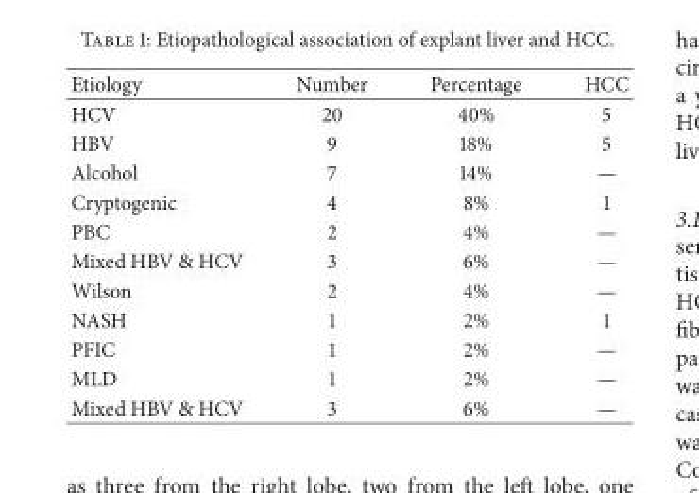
<table><thead><tr><td>Etiology</td><td>Number</td><td>Percentage</td><td>HCC</td></tr></thead><tbody><tr><td>HCV</td><td>20</td><td>40%</td><td>5</td></tr><tr><td>HBV</td><td>9</td><td>18%</td><td>5</td></tr><tr><td>Alcohol</td><td>7</td><td>14%</td><td>—</td></tr><tr><td>Cryptogenic</td><td>4</td><td>8%</td><td>1</td></tr><tr><td>PBC</td><td>2</td><td>4%</td><td>—</td></tr><tr><td>Mixed HBV &amp; HCV</td><td>3</td><td>6%</td><td>—</td></tr><tr><td>Wilson</td><td>2</td><td>4%</td><td>—</td></tr><tr><td>NASH</td><td>1</td><td>2%</td><td>1</td></tr><tr><td>PFIC</td><td>1</td><td>2%</td><td>—</td></tr><tr><td>MLD</td><td>1</td><td>2%</td><td>—</td></tr><tr><td>Mixed HBV &amp; HCV</td><td>3</td><td>6%</td><td>—</td></tr></tbody></table>